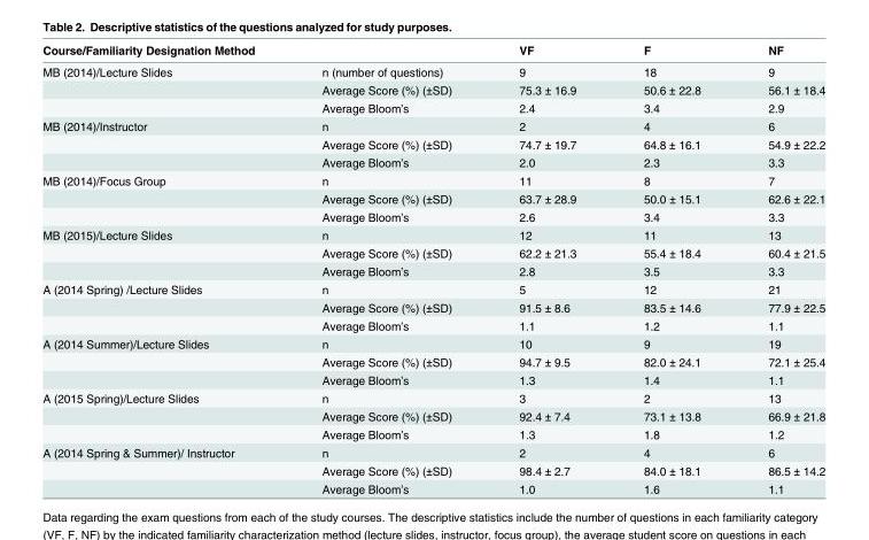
<table><thead><tr><td>Course/Familiarity Designation Method</td><td></td><td>VF</td><td>F</td><td>NF</td></tr></thead><tbody><tr><td rowspan="3">MB (2014)/Lecture Slides</td><td>n (number of questions)</td><td>9</td><td>18</td><td>9</td></tr><tr><td>Average Score (%) (±SD)</td><td>75.3 ± 16.9</td><td>50.6 ± 22.8</td><td>56.1 ± 18.4</td></tr><tr><td>Average Bloom’s</td><td>2.4</td><td>3.4</td><td>2.9</td></tr><tr><td rowspan="3">MB (2014)/Instructor</td><td>n</td><td>2</td><td>4</td><td>6</td></tr><tr><td>Average Score (%) (±SD)</td><td>74.7 ± 19.7</td><td>64.8 ± 16.1</td><td>54.9 ± 22.2</td></tr><tr><td>Average Bloom’s</td><td>2.0</td><td>2.3</td><td>3.3</td></tr><tr><td rowspan="3">MB (2014)/Focus Group</td><td>n</td><td>11</td><td>8</td><td>7</td></tr><tr><td>Average Score (%) (±SD)</td><td>63.7 ± 28.9</td><td>50.0 ± 15.1</td><td>62.6 ± 22.1</td></tr><tr><td>Average Bloom’s</td><td>2.6</td><td>3.4</td><td>3.3</td></tr><tr><td rowspan="3">MB (2015)/Lecture Slides</td><td>n</td><td>12</td><td>11</td><td>13</td></tr><tr><td>Average Score (%) (±SD)</td><td>62.2 ± 21.3</td><td>55.4 ± 18.4</td><td>60.4 ± 21.5</td></tr><tr><td>Average Bloom’s</td><td>2.8</td><td>3.5</td><td>3.3</td></tr><tr><td rowspan="3">A (2014 Spring) /Lecture Slides</td><td>n</td><td>5</td><td>12</td><td>21</td></tr><tr><td>Average Score (%) (±SD)</td><td>91.5 ± 8.6</td><td>83.5 ± 14.6</td><td>77.9 ± 22.5</td></tr><tr><td>Average Bloom’s</td><td>1.1</td><td>1.2</td><td>1.1</td></tr><tr><td rowspan="3">A (2014 Summer)/Lecture Slides</td><td>n</td><td>10</td><td>9</td><td>19</td></tr><tr><td>Average Score (%) (±SD)</td><td>94.7 ± 9.5</td><td>82.0 ± 24.1</td><td>72.1 ± 25.4</td></tr><tr><td>Average Bloom’s</td><td>1.3</td><td>1.4</td><td>1.1</td></tr><tr><td rowspan="3">A (2015 Spring)/Lecture Slides</td><td>n</td><td>3</td><td>2</td><td>13</td></tr><tr><td>Average Score (%) (±SD)</td><td>92.4 ± 7.4</td><td>73.1 ± 13.8</td><td>66.9 ± 21.8</td></tr><tr><td>Average Bloom’s</td><td>1.3</td><td>1.8</td><td>1.2</td></tr><tr><td rowspan="3">A (2014 Spring &amp; Summer)/ Instructor</td><td>n</td><td>2</td><td>4</td><td>6</td></tr><tr><td>Average Score (%) (±SD)</td><td>98.4 ± 2.7</td><td>84.0 ± 18.1</td><td>86.5 ± 14.2</td></tr><tr><td>Average Bloom’s</td><td>1.0</td><td>1.6</td><td>1.1</td></tr></tbody></table>